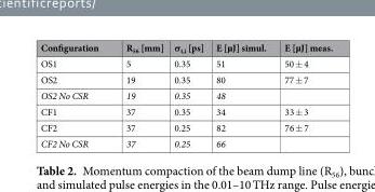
<table><thead><tr><td>Configuration</td><td>R<sub>56</sub> [mm]</td><td>σ<sub>t,i</sub> [ps]</td><td>E [µJ] simul.</td><td>E [µJ] meas.</td></tr></thead><tbody><tr><td>OS1</td><td>5</td><td>0.35</td><td>51</td><td>50 ± 4</td></tr><tr><td>OS2</td><td>19</td><td>0.35</td><td>80</td><td>77 ± 7</td></tr><tr><td>OS2 No CSR</td><td>19</td><td>0.35</td><td>48</td><td></td></tr><tr><td>CF1</td><td>37</td><td>0.35</td><td>34</td><td>33 ± 3</td></tr><tr><td>CF2</td><td>37</td><td>0.25</td><td>82</td><td>76 ± 7</td></tr><tr><td>CF2 No CSR</td><td>37</td><td>0.25</td><td>66</td><td></td></tr></tbody></table>